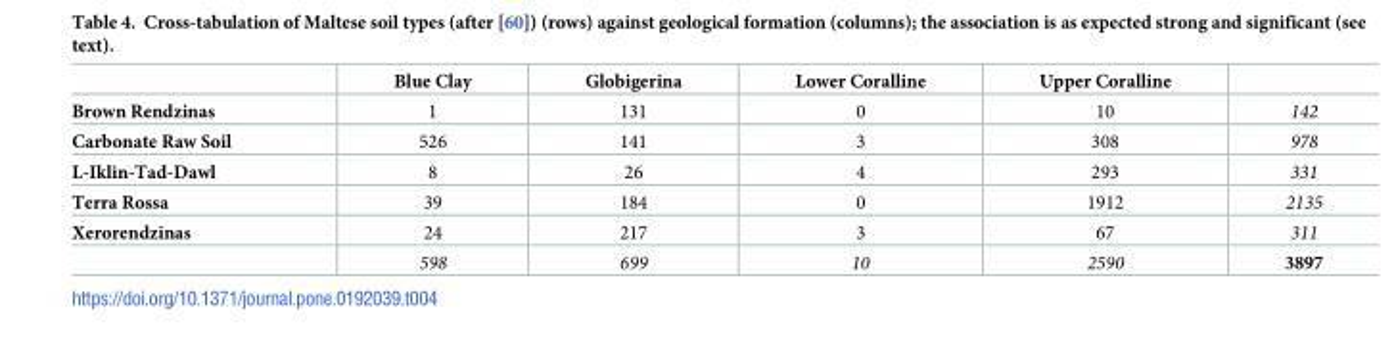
<table><thead><tr><td></td><td>Blue Clay</td><td>Globigerina</td><td>Lower Coralline</td><td>Upper Coralline</td><td></td></tr></thead><tbody><tr><td>Brown Rendzinas</td><td>1</td><td>131</td><td>0</td><td>10</td><td>142</td></tr><tr><td>Carbonate Raw Soil</td><td>526</td><td>141</td><td>3</td><td>308</td><td>978</td></tr><tr><td>L-Iklin-Tad-Dawl</td><td>8</td><td>26</td><td>4</td><td>293</td><td>331</td></tr><tr><td>Terra Rossa</td><td>39</td><td>184</td><td>0</td><td>1912</td><td>2135</td></tr><tr><td rowspan="2">Xerorendzinas</td><td>24</td><td>217</td><td>3</td><td>67</td><td>311</td></tr><tr><td>598</td><td>699</td><td>10</td><td>2590</td><td>3897</td></tr></tbody></table>